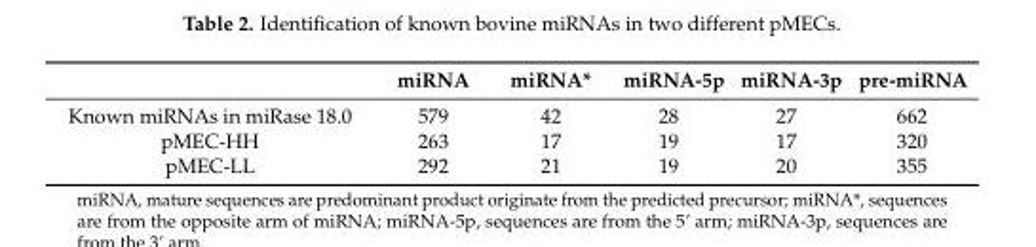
<table><thead><tr><td></td><td>miRNA</td><td>miRNA*</td><td>miRNA-5p</td><td>miRNA-3p</td><td>pre-miRNA</td></tr></thead><tbody><tr><td>Known miRNAs in miRase 18.0</td><td>579</td><td>42</td><td>28</td><td>27</td><td>662</td></tr><tr><td>pMEC-HH</td><td>263</td><td>17</td><td>19</td><td>17</td><td>320</td></tr><tr><td>pMEC-LL</td><td>292</td><td>21</td><td>19</td><td>20</td><td>355</td></tr></tbody></table>